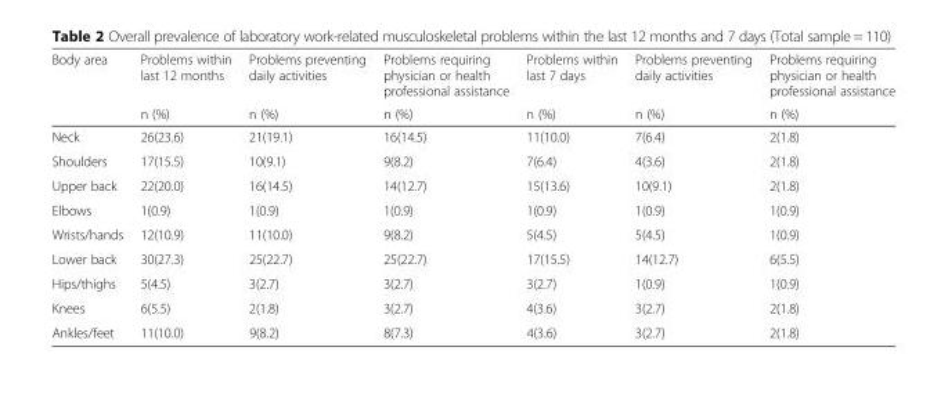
<table><thead><tr><td rowspan="2">Body area</td><td rowspan="2">Problems within last 12 months n (%)</td><td rowspan="2">Problems preventing daily activities n (%)</td><td rowspan="2">Problems requiring physician or health professional assistance n (%)</td><td rowspan="2">Problems within last 7 days n (%)</td><td rowspan="2">Problems preventing daily activities n (%)</td><td rowspan="2">Problems requiring physician or health professional assistance n (%)</td></tr><tr></tr></thead><tbody><tr><td>Neck</td><td>26(23.6)</td><td>21(19.1)</td><td>16(14.5)</td><td>11(10.0)</td><td>7(6.4)</td><td>2(1.8)</td></tr><tr><td>Shoulders</td><td>17(15.5)</td><td>10(9.1)</td><td>9(8.2)</td><td>7(6.4)</td><td>4(3.6)</td><td>2(1.8)</td></tr><tr><td>Upper back</td><td>22(20.0)</td><td>16(14.5)</td><td>14(12.7)</td><td>15(13.6)</td><td>10(9.1)</td><td>2(1.8)</td></tr><tr><td>Elbows</td><td>1(0.9)</td><td>1(0.9)</td><td>1(0.9)</td><td>1(0.9)</td><td>1(0.9)</td><td>1(0.9)</td></tr><tr><td>Wrists/hands</td><td>12(10.9)</td><td>11(10.0)</td><td>9(8.2)</td><td>5(4.5)</td><td>5(4.5)</td><td>1(0.9)</td></tr><tr><td>Lower back</td><td>30(27.3)</td><td>25(22.7)</td><td>25(22.7)</td><td>17(15.5)</td><td>14(12.7)</td><td>6(5.5)</td></tr><tr><td>Hips/thighs</td><td>5(4.5)</td><td>3(2.7)</td><td>3(2.7)</td><td>3(2.7)</td><td>1(0.9)</td><td>1(0.9)</td></tr><tr><td>Knees</td><td>6(5.5)</td><td>2(1.8)</td><td>3(2.7)</td><td>4(3.6)</td><td>3(2.7)</td><td>2(1.8)</td></tr><tr><td>Ankles/feet</td><td>11(10.0)</td><td>9(8.2)</td><td>8(7.3)</td><td>4(3.6)</td><td>3(2.7)</td><td>2(1.8)</td></tr></tbody></table>